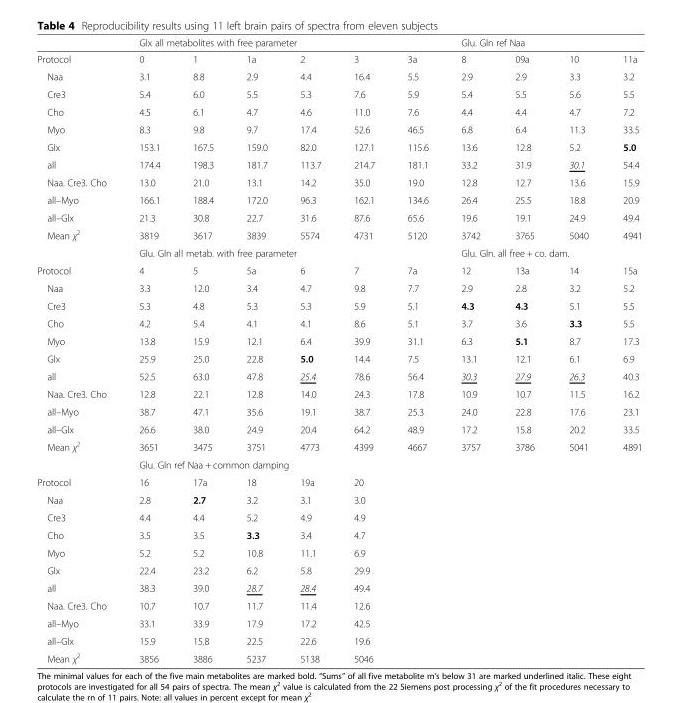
<table><thead><tr><td rowspan="2">Protocol</td><td colspan="6">Glx all metabolites with free parameter</td><td colspan="4">Glu. Gln ref Naa</td></tr><tr><td>0</td><td>1</td><td>1a</td><td>2</td><td>3</td><td>3a</td><td>8</td><td>09a</td><td>10</td><td>11a</td></tr></thead><tbody><tr><td>Naa</td><td>3.1</td><td>8.8</td><td>2.9</td><td>4.4</td><td>16.4</td><td>5.5</td><td>2.9</td><td>2.9</td><td>3.3</td><td>3.2</td></tr><tr><td>Cre3</td><td>5.4</td><td>6.0</td><td>5.5</td><td>5.3</td><td>7.6</td><td>5.9</td><td>5.4</td><td>5.5</td><td>5.6</td><td>5.5</td></tr><tr><td>Cho</td><td>4.5</td><td>6.1</td><td>4.7</td><td>4.6</td><td>11.0</td><td>7.6</td><td>4.4</td><td>4.4</td><td>4.7</td><td>7.2</td></tr><tr><td>Myo</td><td>8.3</td><td>9.8</td><td>9.7</td><td>17.4</td><td>52.6</td><td>46.5</td><td>6.8</td><td>6.4</td><td>11.3</td><td>33.5</td></tr><tr><td>Glx</td><td>153.1</td><td>167.5</td><td>159.0</td><td>82.0</td><td>127.1</td><td>115.6</td><td>13.6</td><td>12.8</td><td>5.2</td><td>5.0</td></tr><tr><td>all</td><td>174.4</td><td>198.3</td><td>181.7</td><td>113.7</td><td>214.7</td><td>181.1</td><td>33.2</td><td>31.9</td><td>30.1</td><td>54.4</td></tr><tr><td>Naa. Cre3. Cho</td><td>13.0</td><td>21.0</td><td>13.1</td><td>14.2</td><td>35.0</td><td>19.0</td><td>12.8</td><td>12.7</td><td>13.6</td><td>15.9</td></tr><tr><td>all–Myo</td><td>166.1</td><td>188.4</td><td>172.0</td><td>96.3</td><td>162.1</td><td>134.6</td><td>26.4</td><td>25.5</td><td>18.8</td><td>20.9</td></tr><tr><td>all–Glx</td><td>21.3</td><td>30.8</td><td>22.7</td><td>31.6</td><td>87.6</td><td>65.6</td><td>19.6</td><td>19.1</td><td>24.9</td><td>49.4</td></tr><tr><td rowspan="2">Mean χ<sup>2</sup></td><td>3819</td><td>3617</td><td>3839</td><td>5574</td><td>4731</td><td>5120</td><td>3742</td><td>3765</td><td>5040</td><td>4941</td></tr><tr><td colspan="6">Glu. Gln all metab. with free parameter</td><td colspan="4">Glu. Gln. all free + co. dam.</td></tr><tr><td>Protocol</td><td>4</td><td>5</td><td>5a</td><td>6</td><td>7</td><td>7a</td><td>12</td><td>13a</td><td>14</td><td>15a</td></tr><tr><td>Naa</td><td>3.3</td><td>12.0</td><td>3.4</td><td>4.7</td><td>9.8</td><td>7.7</td><td>2.9</td><td>2.8</td><td>3.2</td><td>5.2</td></tr><tr><td>Cre3</td><td>5.3</td><td>4.8</td><td>5.3</td><td>5.3</td><td>5.9</td><td>5.1</td><td>4.3</td><td>4.3</td><td>5.1</td><td>5.5</td></tr><tr><td>Cho</td><td>4.2</td><td>5.4</td><td>4.1</td><td>4.1</td><td>8.6</td><td>5.1</td><td>3.7</td><td>3.6</td><td>3.3</td><td>5.5</td></tr><tr><td>Myo</td><td>13.8</td><td>15.9</td><td>12.1</td><td>6.4</td><td>39.9</td><td>31.1</td><td>6.3</td><td>5.1</td><td>8.7</td><td>17.3</td></tr><tr><td>Glx</td><td>25.9</td><td>25.0</td><td>22.8</td><td>5.0</td><td>14.4</td><td>7.5</td><td>13.1</td><td>12.1</td><td>6.1</td><td>6.9</td></tr><tr><td>all</td><td>52.5</td><td>63.0</td><td>47.8</td><td>25.4</td><td>78.6</td><td>56.4</td><td>30.3</td><td>27.9</td><td>26.3</td><td>40.3</td></tr><tr><td>Naa. Cre3. Cho</td><td>12.8</td><td>22.1</td><td>12.8</td><td>14.0</td><td>24.3</td><td>17.8</td><td>10.9</td><td>10.7</td><td>11.5</td><td>16.2</td></tr><tr><td>all–Myo</td><td>38.7</td><td>47.1</td><td>35.6</td><td>19.1</td><td>38.7</td><td>25.3</td><td>24.0</td><td>22.8</td><td>17.6</td><td>23.1</td></tr><tr><td>all–Glx</td><td>26.6</td><td>38.0</td><td>24.9</td><td>20.4</td><td>64.2</td><td>48.9</td><td>17.2</td><td>15.8</td><td>20.2</td><td>33.5</td></tr><tr><td rowspan="2">Mean χ<sup>2</sup></td><td>3651</td><td>3475</td><td>3751</td><td>4773</td><td>4399</td><td>4667</td><td>3757</td><td>3786</td><td>5041</td><td>4891</td></tr><tr><td colspan="6">Glu. Gln ref Naa + common damping</td><td></td><td></td><td></td><td></td></tr><tr><td>Protocol</td><td>16</td><td>17a</td><td>18</td><td>19a</td><td>20</td><td></td><td></td><td></td><td></td><td></td></tr><tr><td>Naa</td><td>2.8</td><td>2.7</td><td>3.2</td><td>3.1</td><td>3.0</td><td></td><td></td><td></td><td></td><td></td></tr><tr><td>Cre3</td><td>4.4</td><td>4.4</td><td>5.2</td><td>4.9</td><td>4.9</td><td></td><td></td><td></td><td></td><td></td></tr><tr><td>Cho</td><td>3.5</td><td>3.5</td><td>3.3</td><td>3.4</td><td>4.7</td><td></td><td></td><td></td><td></td><td></td></tr><tr><td>Myo</td><td>5.2</td><td>5.2</td><td>10.8</td><td>11.1</td><td>6.9</td><td></td><td></td><td></td><td></td><td></td></tr><tr><td>Glx</td><td>22.4</td><td>23.2</td><td>6.2</td><td>5.8</td><td>29.9</td><td></td><td></td><td></td><td></td><td></td></tr><tr><td>all</td><td>38.3</td><td>39.0</td><td>28.7</td><td>28.4</td><td>49.4</td><td></td><td></td><td></td><td></td><td></td></tr><tr><td>Naa. Cre3. Cho</td><td>10.7</td><td>10.7</td><td>11.7</td><td>11.4</td><td>12.6</td><td></td><td></td><td></td><td></td><td></td></tr><tr><td>all–Myo</td><td>33.1</td><td>33.9</td><td>17.9</td><td>17.2</td><td>42.5</td><td></td><td></td><td></td><td></td><td></td></tr><tr><td>all–Glx</td><td>15.9</td><td>15.8</td><td>22.5</td><td>22.6</td><td>19.6</td><td></td><td></td><td></td><td></td><td></td></tr><tr><td>Mean χ<sup>2</sup></td><td>3856</td><td>3886</td><td>5237</td><td>5138</td><td>5046</td><td></td><td></td><td></td><td></td><td></td></tr></tbody></table>